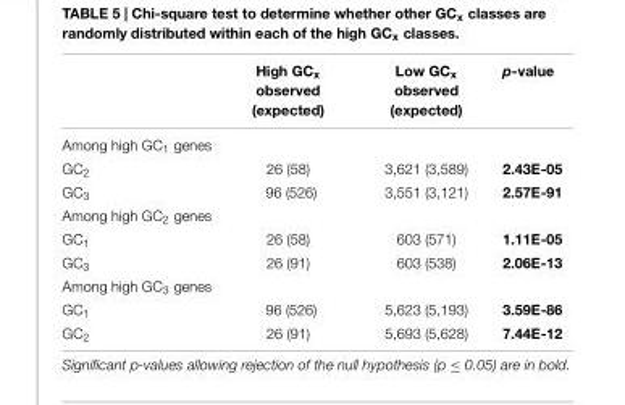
<table><thead><tr><td></td><td>High GC<sub>x</sub> observed (expected)</td><td>Low GC<sub>x</sub> observed (expected)</td><td>p-value</td></tr></thead><tbody><tr><td colspan="4">Among high GC<sub>1</sub> genes</td></tr><tr><td>GC<sub>2</sub></td><td>26 (58)</td><td>3,621 (3,589)</td><td>2.43E-05</td></tr><tr><td>GC<sub>3</sub></td><td>96 (526)</td><td>3,551 (3,121)</td><td>2.57E-91</td></tr><tr><td colspan="4">Among high GC<sub>2</sub> genes</td></tr><tr><td>GC<sub>1</sub></td><td>26 (58)</td><td>603 (571)</td><td>1.11E-05</td></tr><tr><td>GC<sub>3</sub></td><td>26 (91)</td><td>603 (538)</td><td>2.06E-13</td></tr><tr><td colspan="4">Among high GC<sub>3</sub> genes</td></tr><tr><td>GC<sub>1</sub></td><td>96 (526)</td><td>5,623 (5,193)</td><td>3.59E-86</td></tr><tr><td>GC<sub>2</sub></td><td>26 (91)</td><td>5,693 (5,628)</td><td>7.44E-12</td></tr></tbody></table>